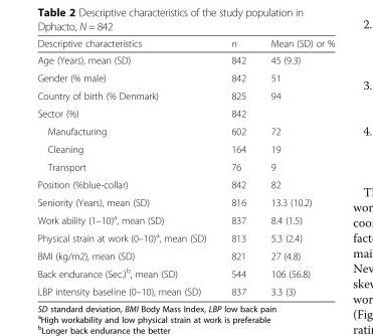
<table><thead><tr><td>Descriptive characteristics</td><td>n</td><td>Mean (SD) or %</td></tr></thead><tbody><tr><td>Age (Years), mean (SD)</td><td>842</td><td>45 (9.3)</td></tr><tr><td>Gender (% male)</td><td>842</td><td>51</td></tr><tr><td>Country of birth (% Denmark)</td><td>825</td><td>94</td></tr><tr><td>Sector (%)</td><td>842</td><td></td></tr><tr><td>Manufacturing</td><td>602</td><td>72</td></tr><tr><td>Cleaning</td><td>164</td><td>19</td></tr><tr><td>Transport</td><td>76</td><td>9</td></tr><tr><td>Position (%blue-collar)</td><td>842</td><td>82</td></tr><tr><td>Seniority (Years), mean (SD)</td><td>816</td><td>13.3 (10.2)</td></tr><tr><td>Work ability (1–10)<sup>a</sup>, mean (SD)</td><td>837</td><td>8.4 (1.5)</td></tr><tr><td>Physical strain at work (0–10)<sup>a</sup>, mean (SD)</td><td>813</td><td>5.3 (2.4)</td></tr><tr><td>BMI (kg/m2), mean (SD)</td><td>821</td><td>27 (4.8)</td></tr><tr><td>Back endurance (Sec.)<sup>b</sup>, mean (SD)</td><td>544</td><td>106 (56.8)</td></tr><tr><td>LBP intensity baseline (0–10), mean (SD)</td><td>837</td><td>3.3 (3)</td></tr></tbody></table>